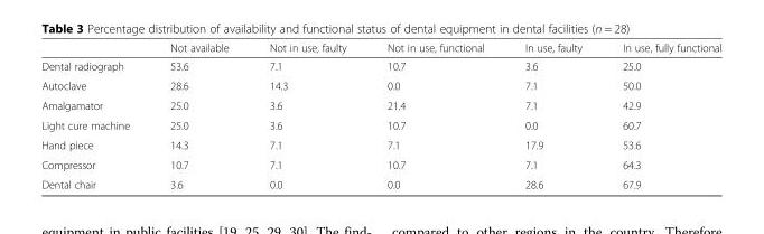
<table><thead><tr><td></td><td>Not available</td><td>Not in use, faulty</td><td>Not in use, functional</td><td>In use, faulty</td><td>In use, fully functional</td></tr></thead><tbody><tr><td>Dental radiograph</td><td>53.6</td><td>7.1</td><td>10.7</td><td>3.6</td><td>25.0</td></tr><tr><td>Autoclave</td><td>28.6</td><td>14.3</td><td>0.0</td><td>7.1</td><td>50.0</td></tr><tr><td>Amalgamator</td><td>25.0</td><td>3.6</td><td>21.4</td><td>7.1</td><td>42.9</td></tr><tr><td>Light cure machine</td><td>25.0</td><td>3.6</td><td>10.7</td><td>0.0</td><td>60.7</td></tr><tr><td>Hand piece</td><td>14.3</td><td>7.1</td><td>7.1</td><td>17.9</td><td>53.6</td></tr><tr><td>Compressor</td><td>10.7</td><td>7.1</td><td>10.7</td><td>7.1</td><td>64.3</td></tr><tr><td>Dental chair</td><td>3.6</td><td>0.0</td><td>0.0</td><td>28.6</td><td>67.9</td></tr></tbody></table>